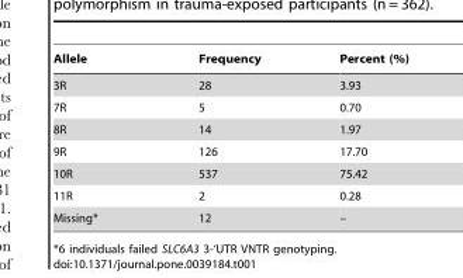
<table><thead><tr><td>Allele</td><td>Frequency</td><td>Percent (%)</td></tr></thead><tbody><tr><td>3R</td><td>28</td><td>3.93</td></tr><tr><td>7R</td><td>5</td><td>0.70</td></tr><tr><td>8R</td><td>14</td><td>1.97</td></tr><tr><td>9R</td><td>126</td><td>17.70</td></tr><tr><td>10R</td><td>537</td><td>75.42</td></tr><tr><td>11R</td><td>2</td><td>0.28</td></tr><tr><td>Missing*</td><td>12</td><td>–</td></tr></tbody></table>